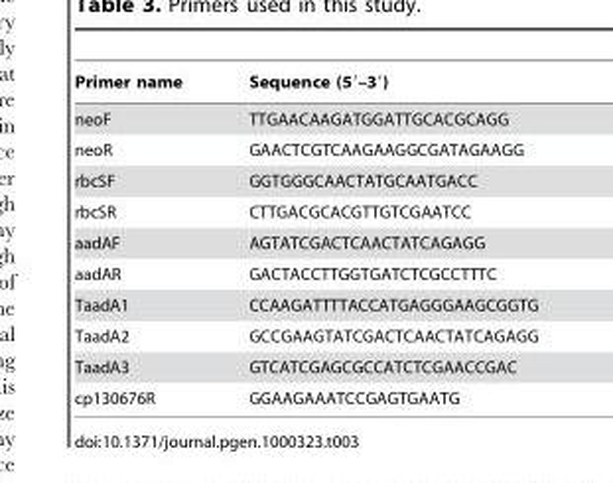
<table><thead><tr><td>Primer name</td><td>Sequence (5′–3′)</td></tr></thead><tbody><tr><td>neoF</td><td>TTGAACAAGATGGATTGCACGCAGG</td></tr><tr><td>neoR</td><td>GAACTCGTCAAGAAGGCGATAGAAGG</td></tr><tr><td>rbcSF</td><td>GGTGGGCAACTATGCAATGACC</td></tr><tr><td>rbcSR</td><td>CTTGACGCACGTTGTCGAATCC</td></tr><tr><td>aadAF</td><td>AGTATCGACTCAACTATCAGAGG</td></tr><tr><td>aadAR</td><td>GACTACCTTGGTGATCTCGCCTTTC</td></tr><tr><td>TaadA1</td><td>CCAAGATTTTACCATGAGGGAAGCGGTG</td></tr><tr><td>TaadA2</td><td>GCCGAAGTATCGACTCAACTATCAGAGG</td></tr><tr><td>TaadA3</td><td>GTCATCGAGCGCCATCTCGAACCGAC</td></tr><tr><td>cp130676R</td><td>GGAAGAAATCCGAGTGAATG</td></tr></tbody></table>